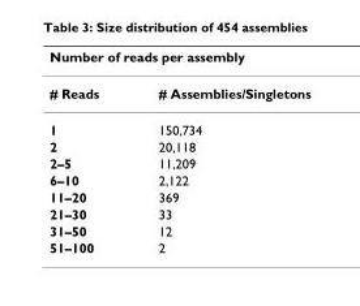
<table><thead><tr><td colspan="2">Number of reads per assembly</td></tr><tr><td># Reads</td><td># Assemblies/Singletons</td></tr></thead><tbody><tr><td>1</td><td>150,734</td></tr><tr><td>2</td><td>20,118</td></tr><tr><td>2–5</td><td>11,209</td></tr><tr><td>6–10</td><td>2,122</td></tr><tr><td>11–20</td><td>369</td></tr><tr><td>21–30</td><td>33</td></tr><tr><td>31–50</td><td>12</td></tr><tr><td>51–100</td><td>2</td></tr></tbody></table>